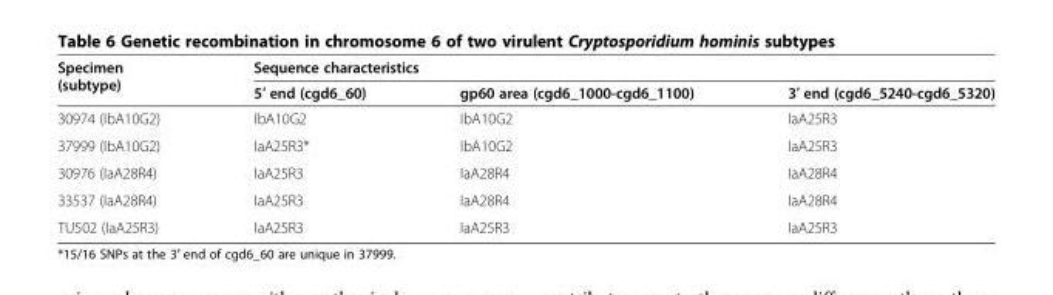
<table><thead><tr><td rowspan="2">Specimen (subtype)</td><td colspan="3">Sequence characteristics</td></tr><tr><td>5′ end (cgd6_60)</td><td>gp60 area (cgd6_1000-cgd6_1100)</td><td>3′ end (cgd6_5240-cgd6_5320)</td></tr></thead><tbody><tr><td>30974 (IbA10G2)</td><td>IbA10G2</td><td>IbA10G2</td><td>IaA25R3</td></tr><tr><td>37999 (IbA10G2)</td><td>IaA25R3*</td><td>IbA10G2</td><td>IaA25R3</td></tr><tr><td>30976 (IaA28R4)</td><td>IaA25R3</td><td>IaA28R4</td><td>IaA28R4</td></tr><tr><td>33537 (IaA28R4)</td><td>IaA25R3</td><td>IaA28R4</td><td>IaA28R4</td></tr><tr><td>TU502 (IaA25R3)</td><td>IaA25R3</td><td>IaA25R3</td><td>IaA25R3</td></tr></tbody></table>